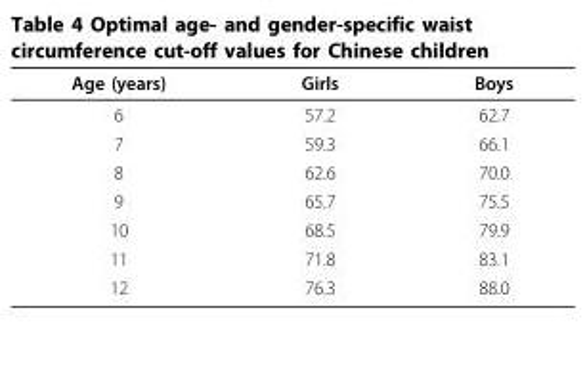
<table><thead><tr><td>Age (years)</td><td>Girls</td><td>Boys</td></tr></thead><tbody><tr><td>6</td><td>57.2</td><td>62.7</td></tr><tr><td>7</td><td>59.3</td><td>66.1</td></tr><tr><td>8</td><td>62.6</td><td>70.0</td></tr><tr><td>9</td><td>65.7</td><td>75.5</td></tr><tr><td>10</td><td>68.5</td><td>79.9</td></tr><tr><td>11</td><td>71.8</td><td>83.1</td></tr><tr><td>12</td><td>76.3</td><td>88.0</td></tr></tbody></table>